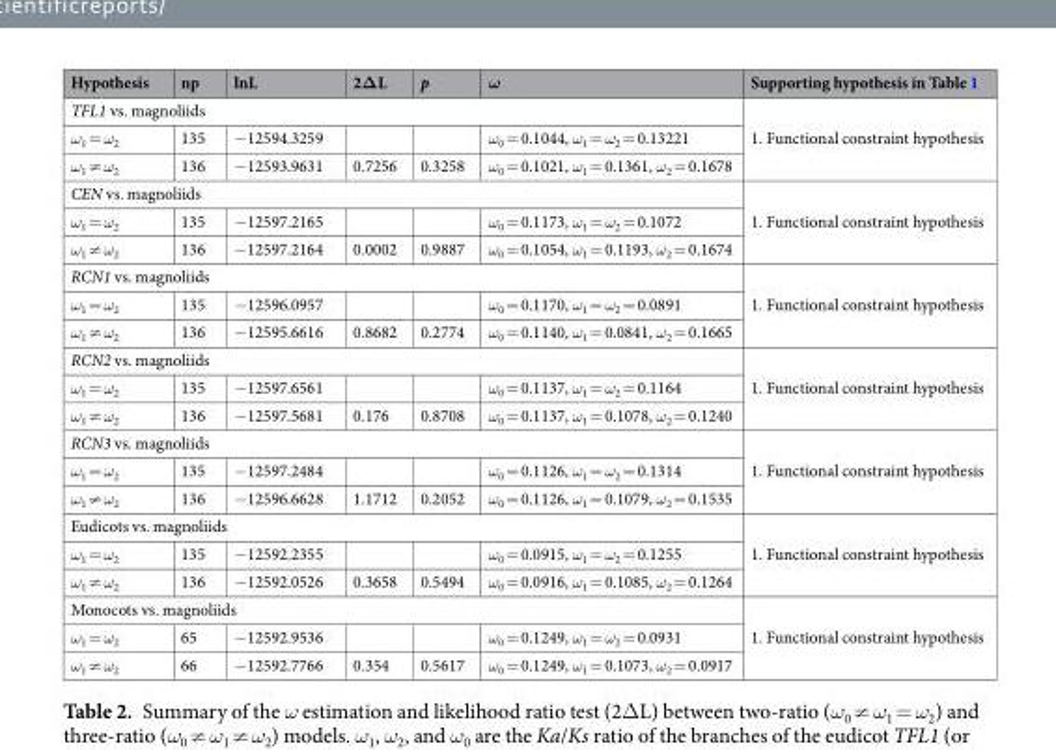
<table><thead><tr><td>Hypothesis</td><td>np</td><td>lnL</td><td>2ΔL</td><td>p</td><td>ω</td><td>Supporting hypothesis in Table 1</td></tr></thead><tbody><tr><td colspan="6">TFL1 vs. magnoliids</td><td rowspan="3">1. Functional constraint hypothesis</td></tr><tr><td>ω<sub>1</sub> = ω<sub>2</sub></td><td>135</td><td>−12594.3259</td><td></td><td></td><td>ω<sub>0</sub> = 0.1044, ω<sub>1</sub> = ω<sub>2</sub> = 0.13221</td></tr><tr><td>ω<sub>1</sub> ≠ ω<sub>2</sub></td><td>136</td><td>−12593.9631</td><td>0.7256</td><td>0.3258</td><td>ω<sub>0</sub> = 0.1021, ω<sub>1</sub> = 0.1361, ω<sub>2</sub> = 0.1678</td></tr><tr><td colspan="6">CEN vs. magnoliids</td><td rowspan="3">1. Functional constraint hypothesis</td></tr><tr><td>ω<sub>1</sub> = ω<sub>2</sub></td><td>135</td><td>−12597.2165</td><td></td><td></td><td>ω<sub>0</sub> = 0.1173, ω<sub>1</sub> = ω<sub>2</sub> = 0.1072</td></tr><tr><td>ω<sub>1</sub> ≠ ω<sub>2</sub></td><td>136</td><td>−12597.2164</td><td>0.0002</td><td>0.9887</td><td>ω<sub>0</sub> = 0.1054, ω<sub>1</sub> = 0.1193, ω<sub>2</sub> = 0.1674</td></tr><tr><td colspan="6">RCN1 vs. magnoliids</td><td rowspan="3">1. Functional constraint hypothesis</td></tr><tr><td>ω<sub>1</sub> = ω<sub>2</sub></td><td>135</td><td>−12596.0957</td><td></td><td></td><td>ω<sub>0</sub> = 0.1170, ω<sub>1</sub> = ω<sub>2</sub> = 0.0891</td></tr><tr><td>ω<sub>1</sub> ≠ ω<sub>2</sub></td><td>136</td><td>−12595.6616</td><td>0.8682</td><td>0.2774</td><td>ω<sub>0</sub> = 0.1140, ω<sub>1</sub> = 0.0841, ω<sub>2</sub> = 0.1665</td></tr><tr><td colspan="6">RCN2 vs. magnoliids</td><td rowspan="3">1. Functional constraint hypothesis</td></tr><tr><td>ω<sub>1</sub> = ω<sub>2</sub></td><td>135</td><td>−12597.6561</td><td></td><td></td><td>ω<sub>0</sub> = 0.1137, ω<sub>1</sub> = ω<sub>2</sub> = 0.1164</td></tr><tr><td>ω<sub>1</sub> ≠ ω<sub>2</sub></td><td>136</td><td>−12597.5681</td><td>0.176</td><td>0.8708</td><td>ω<sub>0</sub> = 0.1137, ω<sub>1</sub> = 0.1078, ω<sub>2</sub> = 0.1240</td></tr><tr><td colspan="6">RCN3 vs. magnoliids</td><td rowspan="3">1. Functional constraint hypothesis</td></tr><tr><td>ω<sub>1</sub> = ω<sub>2</sub></td><td>135</td><td>−12597.2484</td><td></td><td></td><td>ω<sub>0</sub> = 0.1126, ω<sub>1</sub> = ω<sub>2</sub> = 0.1314</td></tr><tr><td>ω<sub>1</sub> ≠ ω<sub>2</sub></td><td>136</td><td>−12596.6628</td><td>1.1712</td><td>0.2052</td><td>ω<sub>0</sub> = 0.1126, ω<sub>1</sub> = 0.1079, ω<sub>2</sub> = 0.1535</td></tr><tr><td colspan="6">Eudicots vs. magnoliids</td><td rowspan="3">1. Functional constraint hypothesis</td></tr><tr><td>ω<sub>1</sub> = ω<sub>2</sub></td><td>135</td><td>−12592.2355</td><td></td><td></td><td>ω<sub>0</sub> = 0.0915, ω<sub>1</sub> = ω<sub>2</sub> = 0.1255</td></tr><tr><td>ω<sub>1</sub> ≠ ω<sub>2</sub></td><td>136</td><td>−12592.0526</td><td>0.3658</td><td>0.5494</td><td>ω<sub>0</sub> = 0.0916, ω<sub>1</sub> = 0.1085, ω<sub>2</sub> = 0.1264</td></tr><tr><td colspan="6">Monocots vs. magnoliids</td><td rowspan="3">1. Functional constraint hypothesis</td></tr><tr><td>ω<sub>1</sub> = ω<sub>2</sub></td><td>65</td><td>−12592.9536</td><td></td><td></td><td>ω<sub>0</sub> = 0.1249, ω<sub>1</sub> = ω<sub>2</sub> = 0.0931</td></tr><tr><td>ω<sub>1</sub> ≠ ω<sub>2</sub></td><td>66</td><td>−12592.7766</td><td>0.354</td><td>0.5617</td><td>ω<sub>0</sub> = 0.1249, ω<sub>1</sub> = 0.1073, ω<sub>2</sub> = 0.0917</td></tr></tbody></table>